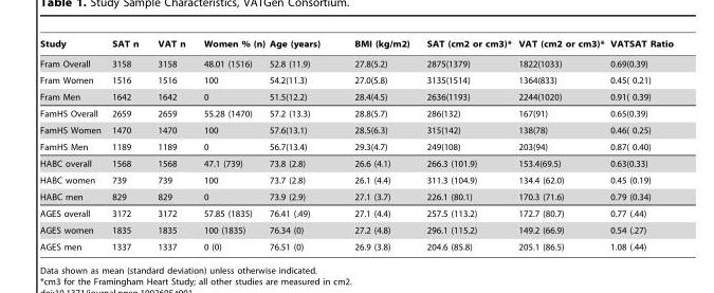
<table><thead><tr><td>Study</td><td>SAT n</td><td>VAT n</td><td>Women % (n)</td><td>Age (years)</td><td>BMI (kg/m2)</td><td>SAT (cm2 or cm3)*</td><td>VAT (cm2 or cm3)*</td><td>VATSAT Ratio</td></tr></thead><tbody><tr><td>Fram Overall</td><td>3158</td><td>3158</td><td>48.01 (1516)</td><td>52.8 (11.9)</td><td>27.8(5.2)</td><td>2875(1379)</td><td>1822(1033)</td><td>0.69(0.39)</td></tr><tr><td>Fram Women</td><td>1516</td><td>1516</td><td>100</td><td>54.2(11.3)</td><td>27.0(5.8)</td><td>3135(1514)</td><td>1364(833)</td><td>0.45( 0.21)</td></tr><tr><td>Fram Men</td><td>1642</td><td>1642</td><td>0</td><td>51.5(12.2)</td><td>28.4(4.5)</td><td>2636(1193)</td><td>2244(1020)</td><td>0.91( 0.39)</td></tr><tr><td>FamHS Overall</td><td>2659</td><td>2659</td><td>55.28 (1470)</td><td>57.2 (13.3)</td><td>28.8(5.7)</td><td>286(132)</td><td>167(91)</td><td>0.65(0.39)</td></tr><tr><td>FamHS Women</td><td>1470</td><td>1470</td><td>100</td><td>57.6(13.1)</td><td>28.5(6.3)</td><td>315(142)</td><td>138(78)</td><td>0.46( 0.25)</td></tr><tr><td>FamHS Men</td><td>1189</td><td>1189</td><td>0</td><td>56.7(13.4)</td><td>29.3(4.7)</td><td>249(108)</td><td>203(94)</td><td>0.87( 0.40)</td></tr><tr><td>HABC overall</td><td>1568</td><td>1568</td><td>47.1 (739)</td><td>73.8 (2.8)</td><td>26.6 (4.1)</td><td>266.3 (101.9)</td><td>153.4(69.5)</td><td>0.63(0.33)</td></tr><tr><td>HABC women</td><td>739</td><td>739</td><td>100</td><td>73.7 (2.8)</td><td>26.1 (4.4)</td><td>311.3 (104.9)</td><td>134.4 (62.0)</td><td>0.45 (0.19)</td></tr><tr><td>HABC men</td><td>829</td><td>829</td><td>0</td><td>73.9 (2.9)</td><td>27.1 (3.7)</td><td>226.1 (80.1)</td><td>170.3 (71.6)</td><td>0.79 (0.34)</td></tr><tr><td>AGES overall</td><td>3172</td><td>3172</td><td>57.85 (1835)</td><td>76.41 (.49)</td><td>27.1 (4.4)</td><td>257.5 (113.2)</td><td>172.7 (80.7)</td><td>0.77 (.44)</td></tr><tr><td>AGES women</td><td>1835</td><td>1835</td><td>100 (1835)</td><td>76.34 (0)</td><td>27.2 (4.8)</td><td>296.1 (115.2)</td><td>149.2 (66.9)</td><td>0.54 (.27)</td></tr><tr><td>AGES men</td><td>1337</td><td>1337</td><td>0 (0)</td><td>76.51 (0)</td><td>26.9 (3.8)</td><td>204.6 (85.8)</td><td>205.1 (86.5)</td><td>1.08 (.44)</td></tr></tbody></table>